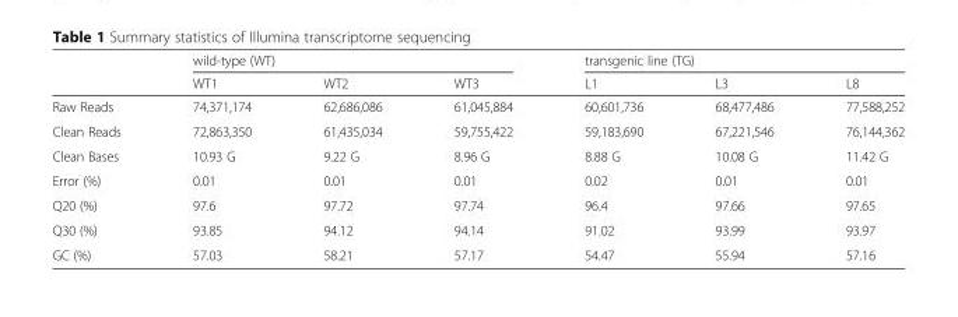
<table><thead><tr><td rowspan="2"></td><td colspan="3">wild-type (WT)</td><td colspan="3">transgenic line (TG)</td></tr><tr><td>WT1</td><td>WT2</td><td>WT3</td><td>L1</td><td>L3</td><td>L8</td></tr></thead><tbody><tr><td>Raw Reads</td><td>74,371,174</td><td>62,686,086</td><td>61,045,884</td><td>60,601,736</td><td>68,477,486</td><td>77,588,252</td></tr><tr><td>Clean Reads</td><td>72,863,350</td><td>61,435,034</td><td>59,755,422</td><td>59,183,690</td><td>67,221,546</td><td>76,144,362</td></tr><tr><td>Clean Bases</td><td>10.93 G</td><td>9.22 G</td><td>8.96 G</td><td>8.88 G</td><td>10.08 G</td><td>11.42 G</td></tr><tr><td>Error (%)</td><td>0.01</td><td>0.01</td><td>0.01</td><td>0.02</td><td>0.01</td><td>0.01</td></tr><tr><td>Q20 (%)</td><td>97.6</td><td>97.72</td><td>97.74</td><td>96.4</td><td>97.66</td><td>97.65</td></tr><tr><td>Q30 (%)</td><td>93.85</td><td>94.12</td><td>94.14</td><td>91.02</td><td>93.99</td><td>93.97</td></tr><tr><td>GC (%)</td><td>57.03</td><td>58.21</td><td>57.17</td><td>54.47</td><td>55.94</td><td>57.16</td></tr></tbody></table>